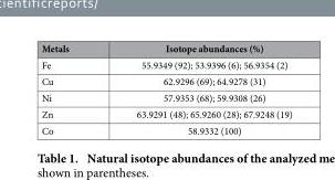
<table><thead><tr><td>Metals</td><td>Isotope abundances (%)</td></tr></thead><tbody><tr><td>Fe</td><td>55.9349 (92); 53.9396 (6); 56.9354 (2)</td></tr><tr><td>Cu</td><td>62.9296 (69); 64.9278 (31)</td></tr><tr><td>Ni</td><td>57.9353 (68); 59.9308 (26)</td></tr><tr><td>Zn</td><td>63.9291 (48); 65.9260 (28); 67.9248 (19)</td></tr><tr><td>Co</td><td>58.9332 (100)</td></tr></tbody></table>